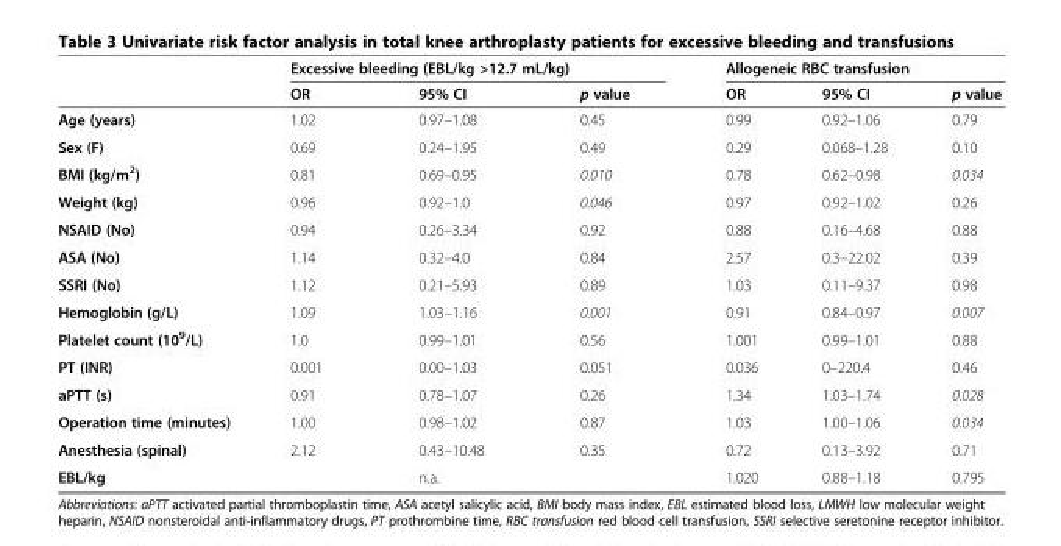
<table><thead><tr><td rowspan="2"></td><td colspan="3">Excessive bleeding (EBL/kg &gt;12.7 mL/kg)</td><td colspan="3">Allogeneic RBC transfusion</td></tr><tr><td>OR</td><td>95% CI</td><td>p value</td><td>OR</td><td>95% CI</td><td>p value</td></tr></thead><tbody><tr><td>Age (years)</td><td>1.02</td><td>0.97–1.08</td><td>0.45</td><td>0.99</td><td>0.92–1.06</td><td>0.79</td></tr><tr><td>Sex (F)</td><td>0.69</td><td>0.24–1.95</td><td>0.49</td><td>0.29</td><td>0.068–1.28</td><td>0.10</td></tr><tr><td>BMI (kg/m<sup>2</sup>)</td><td>0.81</td><td>0.69–0.95</td><td>0.010</td><td>0.78</td><td>0.62–0.98</td><td>0.034</td></tr><tr><td>Weight (kg)</td><td>0.96</td><td>0.92–1.0</td><td>0.046</td><td>0.97</td><td>0.92–1.02</td><td>0.26</td></tr><tr><td>NSAID (No)</td><td>0.94</td><td>0.26–3.34</td><td>0.92</td><td>0.88</td><td>0.16–4.68</td><td>0.88</td></tr><tr><td>ASA (No)</td><td>1.14</td><td>0.32–4.0</td><td>0.84</td><td>2.57</td><td>0.3–22.02</td><td>0.39</td></tr><tr><td>SSRI (No)</td><td>1.12</td><td>0.21–5.93</td><td>0.89</td><td>1.03</td><td>0.11–9.37</td><td>0.98</td></tr><tr><td>Hemoglobin (g/L)</td><td>1.09</td><td>1.03–1.16</td><td>0.001</td><td>0.91</td><td>0.84–0.97</td><td>0.007</td></tr><tr><td>Platelet count (10<sup>9</sup>/L)</td><td>1.0</td><td>0.99–1.01</td><td>0.56</td><td>1.001</td><td>0.99–1.01</td><td>0.88</td></tr><tr><td>PT (INR)</td><td>0.001</td><td>0.00–1.03</td><td>0.051</td><td>0.036</td><td>0–220.4</td><td>0.46</td></tr><tr><td>aPTT (s)</td><td>0.91</td><td>0.78–1.07</td><td>0.26</td><td>1.34</td><td>1.03–1.74</td><td>0.028</td></tr><tr><td>Operation time (minutes)</td><td>1.00</td><td>0.98–1.02</td><td>0.87</td><td>1.03</td><td>1.00–1.06</td><td>0.034</td></tr><tr><td>Anesthesia (spinal)</td><td>2.12</td><td>0.43–10.48</td><td>0.35</td><td>0.72</td><td>0.13–3.92</td><td>0.71</td></tr><tr><td>EBL/kg</td><td></td><td>n.a.</td><td></td><td>1.020</td><td>0.88–1.18</td><td>0.795</td></tr></tbody></table>